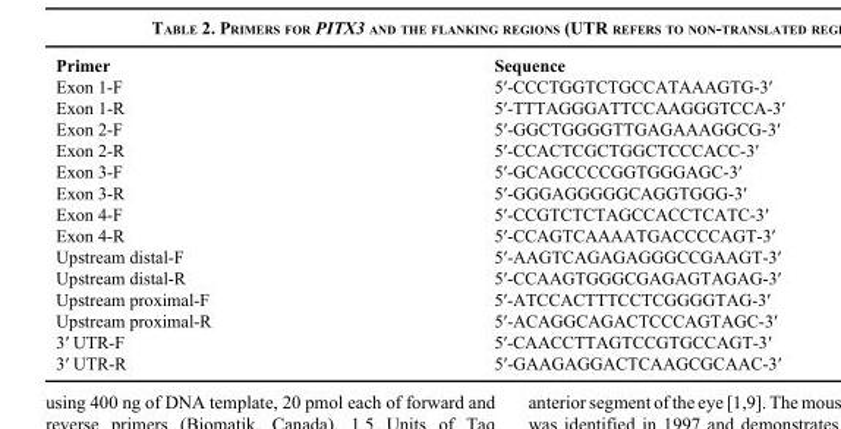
<table><thead><tr><td>Primer</td><td>Sequence</td></tr></thead><tbody><tr><td>Exon 1-F</td><td>5′-CCCTGGTCTGCCATAAAGTG-3′</td></tr><tr><td>Exon 1-R</td><td>5′-TTTAGGGATTCCAAGGGTCCA-3′</td></tr><tr><td>Exon 2-F</td><td>5′-GGCTGGGGTTGAGAAAGGCG-3′</td></tr><tr><td>Exon 2-R</td><td>5′-CCACTCGCTGGCTCCCACC-3′</td></tr><tr><td>Exon 3-F</td><td>5′-GCAGCCCCGGTGGGAGC-3′</td></tr><tr><td>Exon 3-R</td><td>5′-GGGAGGGGGCAGGTGGG-3′</td></tr><tr><td>Exon 4-F</td><td>5′-CCGTCTCTAGCCACCTCATC-3′</td></tr><tr><td>Exon 4-R</td><td>5′-CCAGTCAAAATGACCCCAGT-3′</td></tr><tr><td>Upstream distal-F</td><td>5′-AAGTCAGAGAGGGCCGAAGT-3′</td></tr><tr><td>Upstream distal-R</td><td>5′-CCAAGTGGGCGAGAGTAGAG-3′</td></tr><tr><td>Upstream proximal-F</td><td>5′-ATCCACTTTCCTCGGGGTAG-3′</td></tr><tr><td>Upstream proximal-R</td><td>5′-ACAGGCAGACTCCCAGTAGC-3′</td></tr><tr><td>3′ UTR-F</td><td>5′-CAACCTTAGTCCGTGCCAGT-3′</td></tr><tr><td>3′ UTR-R</td><td>5′-GAAGAGGACTCAAGCGCAAC-3′</td></tr></tbody></table>